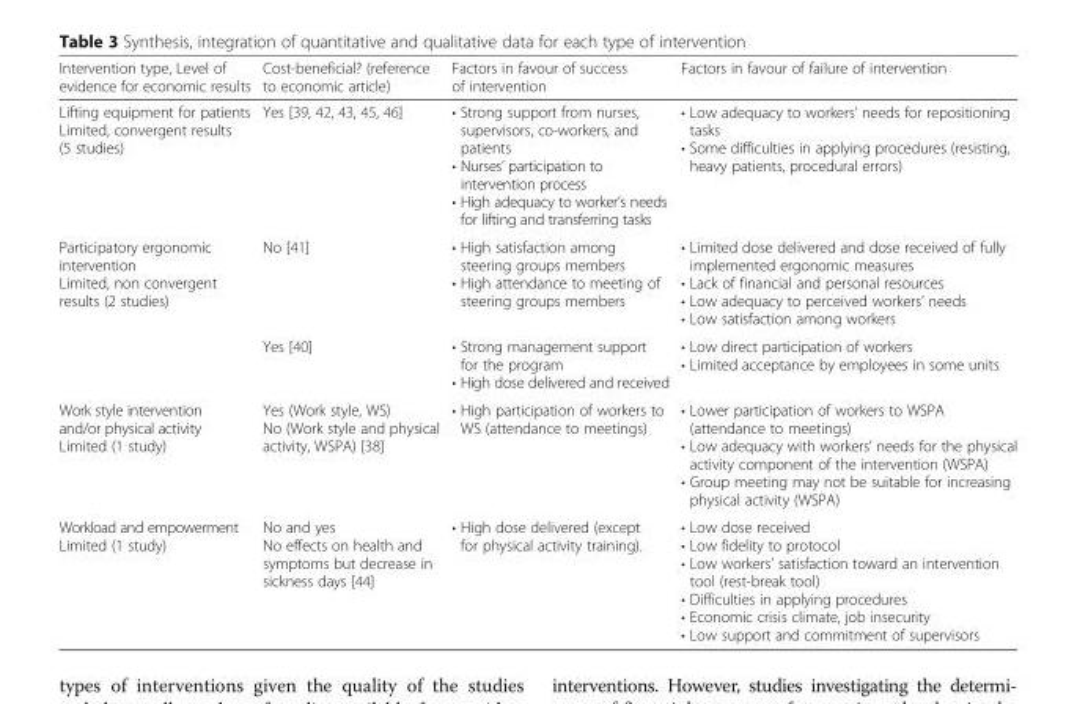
<table><thead><tr><td>Intervention type, Level of evidence for economic results</td><td>Cost-beneficial? (reference to economic article)</td><td>Factors in favour of success of intervention</td><td>Factors in favour of failure of intervention</td></tr></thead><tbody><tr><td>Lifting equipment for patients Limited, convergent results (5 studies)</td><td>Yes [39, 42, 43, 45, 46]</td><td>• Strong support from nurses, supervisors, co-workers, and patients • Nurses’ participation to intervention process • High adequacy to worker’s needs for lifting and transferring tasks</td><td>• Low adequacy to workers’ needs for repositioning tasks • Some difficulties in applying procedures (resisting, heavy patients, procedural errors)</td></tr><tr><td rowspan="2">Participatory ergonomic intervention Limited, non convergent results (2 studies)</td><td>No [41]</td><td>• High satisfaction among steering groups members • High attendance to meeting of steering groups members</td><td>• Limited dose delivered and dose received of fully implemented ergonomic measures • Lack of financial and personal resources • Low adequacy to perceived workers’ needs • Low satisfaction among workers</td></tr><tr><td>Yes [40]</td><td>• Strong management support for the program • High dose delivered and received</td><td>• Low direct participation of workers • Limited acceptance by employees in some units</td></tr><tr><td>Work style intervention and/or physical activity Limited (1 study)</td><td>Yes (Work style, WS) No (Work style and physical activity, WSPA) [38]</td><td>• High participation of workers to WS (attendance to meetings)</td><td>• Lower participation of workers to WSPA (attendance to meetings) • Low adequacy with workers’ needs for the physical activity component of the intervention (WSPA) • Group meeting may not be suitable for increasing physical activity (WSPA)</td></tr><tr><td>Workload and empowerment Limited (1 study)</td><td>No and yes No effects on health and symptoms but decrease in sickness days [44]</td><td>• High dose delivered (except for physical activity training).</td><td>• Low dose received • Low fidelity to protocol • Low workers’ satisfaction toward an intervention tool (rest-break tool) • Difficulties in applying procedures • Economic crisis climate, job insecurity • Low support and commitment of supervisors</td></tr></tbody></table>